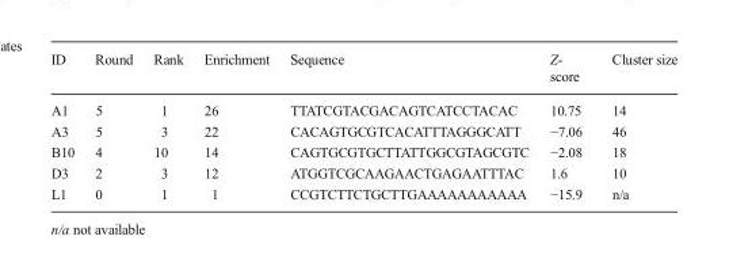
<table><thead><tr><td>ID</td><td>Round</td><td>Rank</td><td>Enrichment</td><td>Sequence</td><td>Z- score</td><td>Cluster size</td></tr></thead><tbody><tr><td>A1</td><td>5</td><td>1</td><td>26</td><td>TTATCGTACGACAGTCATCCTACAC</td><td>10.75</td><td>14</td></tr><tr><td>A3</td><td>5</td><td>3</td><td>22</td><td>CACAGTGCGTCACATTTAGGGCATT</td><td>−7.06</td><td>46</td></tr><tr><td>B10</td><td>4</td><td>10</td><td>14</td><td>CAGTGCGTGCTTATTGGCGTAGCGTC</td><td>−2.08</td><td>18</td></tr><tr><td>D3</td><td>2</td><td>3</td><td>12</td><td>ATGGTCGCAAGAACTGAGAATTTAC</td><td>1.6</td><td>10</td></tr><tr><td>L1</td><td>0</td><td>1</td><td>1</td><td>CCGTCTTCTGCTTGAAAAAAAAAAA</td><td>−15.9</td><td>n/a</td></tr></tbody></table>